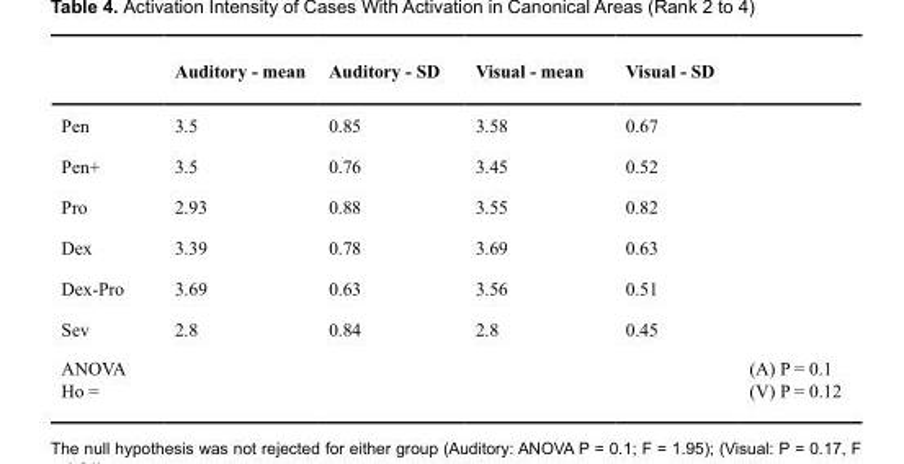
<table><thead><tr><td></td><td>Auditory - mean</td><td>Auditory - SD</td><td>Visual - mean</td><td>Visual - SD</td><td></td></tr></thead><tbody><tr><td>Pen</td><td>3.5</td><td>0.85</td><td>3.58</td><td>0.67</td><td></td></tr><tr><td>Pen+</td><td>3.5</td><td>0.76</td><td>3.45</td><td>0.52</td><td></td></tr><tr><td>Pro</td><td>2.93</td><td>0.88</td><td>3.55</td><td>0.82</td><td></td></tr><tr><td>Dex</td><td>3.39</td><td>0.78</td><td>3.69</td><td>0.63</td><td></td></tr><tr><td>Dex-Pro</td><td>3.69</td><td>0.63</td><td>3.56</td><td>0.51</td><td></td></tr><tr><td>Sev</td><td>2.8</td><td>0.84</td><td>2.8</td><td>0.45</td><td></td></tr><tr><td>ANOVA</td><td></td><td></td><td></td><td></td><td>(A) P = 0.1</td></tr><tr><td>Ho =</td><td></td><td></td><td></td><td></td><td>(V) P = 0.12</td></tr></tbody></table>